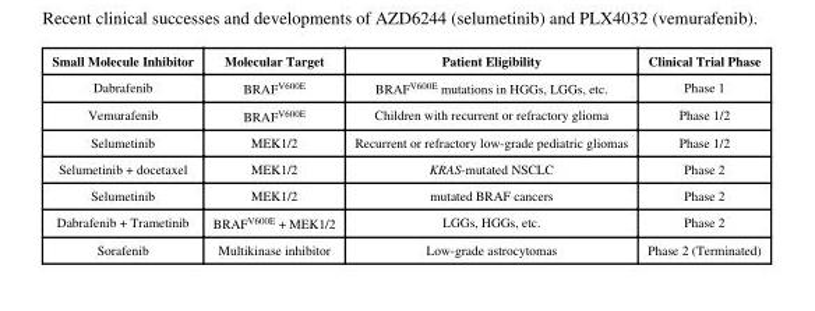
<table><thead><tr><td>Small Molecule Inhibitor</td><td>Molecular Target</td><td>Patient Eligibility</td><td>Clinical Trial Phase</td></tr></thead><tbody><tr><td>Dabrafenib</td><td>BRAF<sup>V600E</sup></td><td>BRAF<sup>V600E</sup> mutations in HGGs, LGGs, etc.</td><td>Phase 1</td></tr><tr><td>Vemurafenib</td><td>BRAF<sup>V600E</sup></td><td>Children with recurrent or refractory glioma</td><td>Phase 1/2</td></tr><tr><td>Selumetinib</td><td>MEK1/2</td><td>Recurrent or refractory low-grade pediatric gliomas</td><td>Phase 1/2</td></tr><tr><td>Selumetinib + docetaxel</td><td>MEK1/2</td><td>KRAS-mutated NSCLC</td><td>Phase 2</td></tr><tr><td>Selumetinib</td><td>MEK1/2</td><td>mutated BRAF cancers</td><td>Phase 2</td></tr><tr><td>Dabrafenib + Trametinib</td><td>BRAF<sup>V600E</sup> + MEK1/2</td><td>LGGs, HGGs, etc.</td><td>Phase 2</td></tr><tr><td>Sorafenib</td><td>Multikinase inhibitor</td><td>Low-grade astrocytomas</td><td>Phase 2 (Terminated)</td></tr></tbody></table>